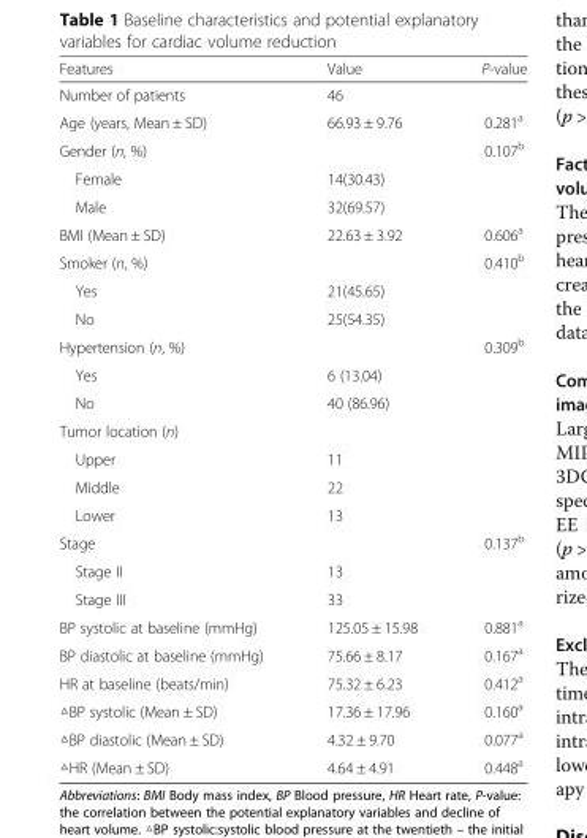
<table><thead><tr><td>Features</td><td>Value</td><td>P-value</td></tr></thead><tbody><tr><td>Number of patients</td><td>46</td><td></td></tr><tr><td>Age (years, Mean ± SD)</td><td>66.93 ± 9.76</td><td>0.281<sup>a</sup></td></tr><tr><td>Gender (n, %)</td><td></td><td>0.107<sup>b</sup></td></tr><tr><td>Female</td><td>14(30.43)</td><td></td></tr><tr><td>Male</td><td>32(69.57)</td><td></td></tr><tr><td>BMI (Mean ± SD)</td><td>22.63 ± 3.92</td><td>0.606<sup>a</sup></td></tr><tr><td>Smoker (n, %)</td><td></td><td>0.410<sup>b</sup></td></tr><tr><td>Yes</td><td>21(45.65)</td><td></td></tr><tr><td>No</td><td>25(54.35)</td><td></td></tr><tr><td>Hypertension (n, %)</td><td></td><td>0.309<sup>b</sup></td></tr><tr><td>Yes</td><td>6 (13.04)</td><td></td></tr><tr><td>No</td><td>40 (86.96)</td><td></td></tr><tr><td colspan="3">Tumor location (n)</td></tr><tr><td>Upper</td><td>11</td><td></td></tr><tr><td>Middle</td><td>22</td><td></td></tr><tr><td>Lower</td><td>13</td><td></td></tr><tr><td>Stage</td><td></td><td>0.137<sup>b</sup></td></tr><tr><td>Stage II</td><td>13</td><td></td></tr><tr><td>Stage III</td><td>33</td><td></td></tr><tr><td>BP systolic at baseline (mmHg)</td><td>125.05 ± 15.98</td><td>0.881<sup>a</sup></td></tr><tr><td>BP diastolic at baseline (mmHg)</td><td>75.66 ± 8.17</td><td>0.167<sup>a</sup></td></tr><tr><td>HR at baseline (beats/min)</td><td>75.32 ± 6.23</td><td>0.412<sup>a</sup></td></tr><tr><td>△BP systolic (Mean ± SD)</td><td>17.36 ± 17.96</td><td>0.160<sup>a</sup></td></tr><tr><td>△BP diastolic (Mean ± SD)</td><td>4.32 ± 9.70</td><td>0.077<sup>a</sup></td></tr><tr><td>△HR (Mean ± SD)</td><td>4.64 ± 4.91</td><td>0.448<sup>a</sup></td></tr></tbody></table>